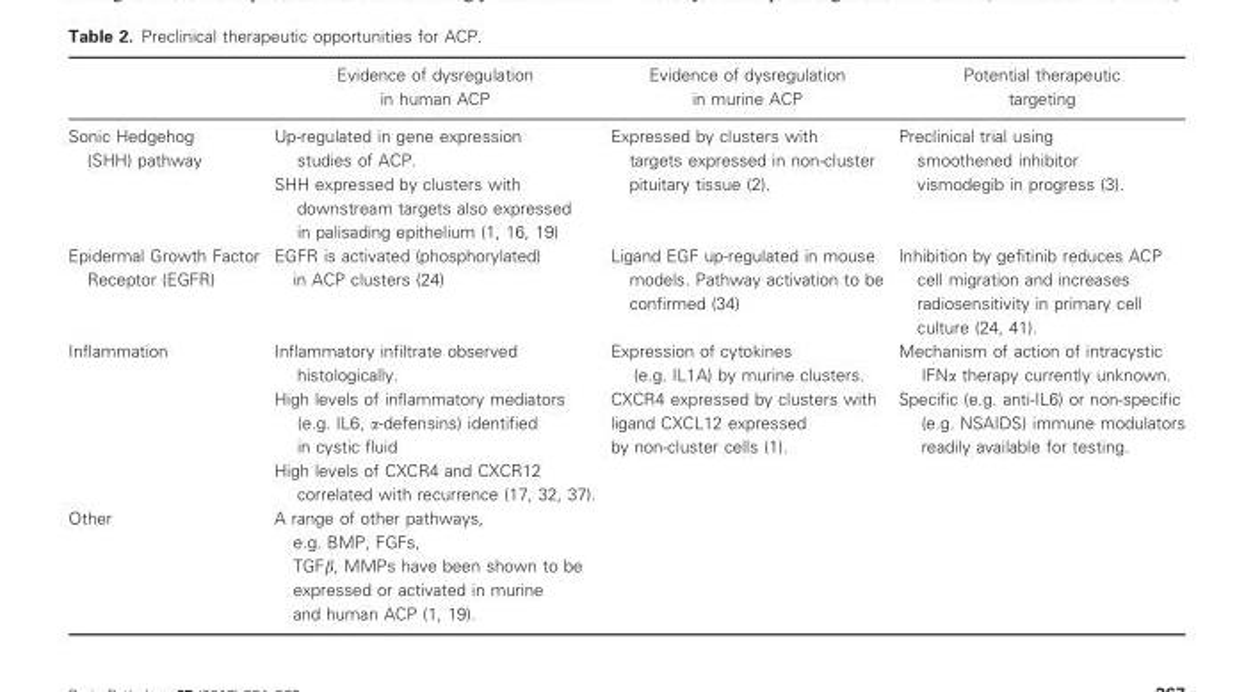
<table><thead><tr><td></td><td>Evidence of dysregulation in human ACP</td><td>Evidence of dysregulation in murine ACP</td><td>Potential therapeutic targeting</td></tr></thead><tbody><tr><td>Sonic Hedgehog (SHH) pathway</td><td>Up-regulated in gene expression studies of ACP. SHH expressed by clusters with downstream targets also expressed in palisading epithelium (1, 16, 19)</td><td>Expressed by clusters with targets expressed in non-cluster pituitary tissue (2).</td><td>Preclinical trial using smoothened inhibitor vismodegib in progress (3).</td></tr><tr><td>Epidermal Growth Factor Receptor (EGFR)</td><td>EGFR is activated (phosphorylated) in ACP clusters (24)</td><td>Ligand EGF up-regulated in mouse models. Pathway activation to be confirmed (34)</td><td>Inhibition by gefitinib reduces ACP cell migration and increases radiosensitivity in primary cell culture (24, 41).</td></tr><tr><td>Inflammation</td><td>Inflammatory infiltrate observed histologically. High levels of inflammatory mediators (e.g. IL6, a-defensins) identified in cystic fluid High levels of CXCR4 and CXCR12 correlated with recurrence (17, 32, 37).</td><td>Expression of cytokines (e.g. IL1A) by murine clusters. CXCR4 expressed by clusters with ligand CXCL12 expressed by non-cluster cells (1).</td><td>Mechanism of action of intracystic IFNα therapy currently unknown. Specific (e.g. anti-IL6) or non-specific (e.g. NSAIDS) immune modulators readily available for testing.</td></tr><tr><td>Other</td><td colspan="3">A range of other pathways, e.g. BMP, FGFs, TGFb, MMPs have been shown to be expressed or activated in murine and human ACP (1, 19).</td></tr></tbody></table>